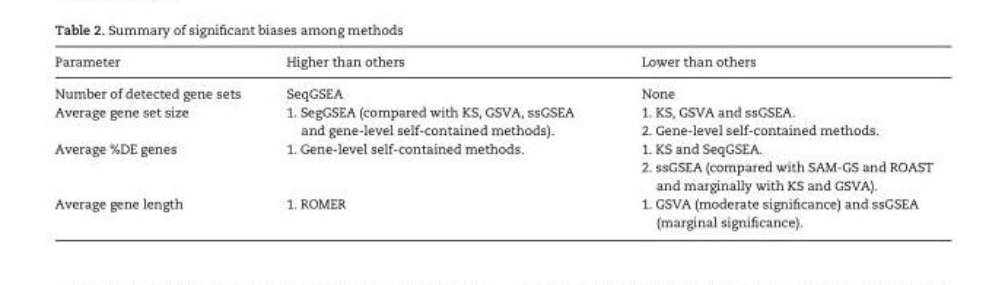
<table><thead><tr><td>Parameter</td><td>Higher than others</td><td>Lower than others</td></tr></thead><tbody><tr><td>Number of detected gene sets</td><td>SeqGSEA</td><td>None</td></tr><tr><td rowspan="2">Average gene set size</td><td rowspan="2">1. SegGSEA (compared with KS, GSVA, ssGSEA and gene-level self-contained methods).</td><td>1. KS, GSVA and ssGSEA.</td></tr><tr><td>2. Gene-level self-contained methods.</td></tr><tr><td rowspan="2">Average %DE genes</td><td rowspan="2">1. Gene-level self-contained methods.</td><td>1. KS and SeqGSEA.</td></tr><tr><td>2. ssGSEA (compared with SAM-GS and ROAST and marginally with KS and GSVA).</td></tr><tr><td>Average gene length</td><td>1. ROMER</td><td>1. GSVA (moderate significance) and ssGSEA (marginal significance).</td></tr></tbody></table>